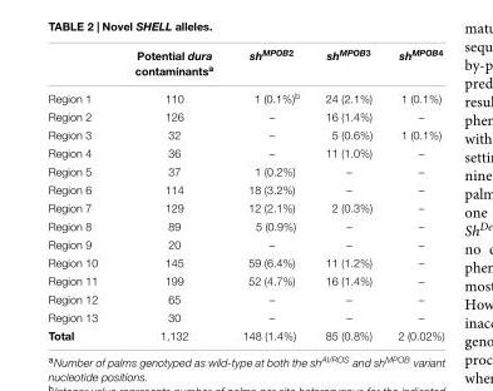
<table><thead><tr><td></td><td>Potential dura contaminants<sup>a</sup></td><td>sh<sup>MPOB2</sup></td><td>sh<sup>MPOB3</sup></td><td>sh<sup>MPOB4</sup></td></tr></thead><tbody><tr><td>Region 1</td><td>110</td><td>1 (0.1%)<sup>b</sup></td><td>24 (2.1%)</td><td>1 (0.1%)</td></tr><tr><td>Region 2</td><td>126</td><td>–</td><td>16 (1.4%)</td><td>–</td></tr><tr><td>Region 3</td><td>32</td><td>–</td><td>5 (0.6%)</td><td>1 (0.1%)</td></tr><tr><td>Region 4</td><td>36</td><td>–</td><td>11 (1.0%)</td><td>–</td></tr><tr><td>Region 5</td><td>37</td><td>1 (0.2%)</td><td>–</td><td>–</td></tr><tr><td>Region 6</td><td>114</td><td>18 (3.2%)</td><td>–</td><td>–</td></tr><tr><td>Region 7</td><td>129</td><td>12 (2.1%)</td><td>2 (0.3%)</td><td>–</td></tr><tr><td>Region 8</td><td>89</td><td>5 (0.9%)</td><td>–</td><td>–</td></tr><tr><td>Region 9</td><td>20</td><td>–</td><td>–</td><td>–</td></tr><tr><td>Region 10</td><td>145</td><td>59 (6.4%)</td><td>11 (1.2%)</td><td>–</td></tr><tr><td>Region 11</td><td>199</td><td>52 (4.7%)</td><td>16 (1.4%)</td><td>–</td></tr><tr><td>Region 12</td><td>65</td><td>–</td><td>–</td><td>–</td></tr><tr><td>Region 13</td><td>30</td><td>–</td><td>–</td><td>–</td></tr><tr><td>Total</td><td>1,132</td><td>148 (1.4%)</td><td>85 (0.8%)</td><td>2 (0.02%)</td></tr></tbody></table>